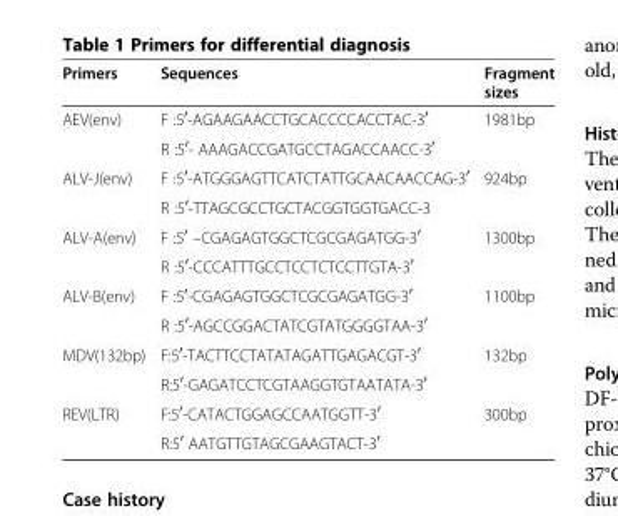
<table><thead><tr><td>Primers</td><td>Sequences</td><td>Fragment sizes</td></tr></thead><tbody><tr><td rowspan="2">AEV(env)</td><td>F :5<sup>′</sup>-AGAAGAACCTGCACCCCACCTAC-3<sup>′</sup></td><td rowspan="2">1981bp</td></tr><tr><td>R :5<sup>′</sup>- AAAGACCGATGCCTAGACCAACC-3<sup>′</sup></td></tr><tr><td rowspan="2">ALV-J(env)</td><td>F :5<sup>′</sup>-ATGGGAGTTCATCTATTGCAACAACCAG-3<sup>′</sup></td><td rowspan="2">924bp</td></tr><tr><td>R :5<sup>′</sup>-TTAGCGCCTGCTACGGTGGTGACC-3</td></tr><tr><td rowspan="2">ALV-A(env)</td><td>F :5<sup>′</sup> –CGAGAGTGGCTCGCGAGATGG-3<sup>′</sup></td><td rowspan="2">1300bp</td></tr><tr><td>R :5<sup>′</sup>-CCCATTTGCCTCCTCTCCTTGTA-3<sup>′</sup></td></tr><tr><td rowspan="2">ALV-B(env)</td><td>F :5<sup>′</sup>-CGAGAGTGGCTCGCGAGATGG-3<sup>′</sup></td><td rowspan="2">1100bp</td></tr><tr><td>R :5<sup>′</sup>-AGCCGGACTATCGTATGGGGTAA-3<sup>′</sup></td></tr><tr><td rowspan="2">MDV(132bp)</td><td>F:5<sup>′</sup>-TACTTCCTATATAGATTGAGACGT-3<sup>′</sup></td><td rowspan="2">132bp</td></tr><tr><td>R:5<sup>′</sup>-GAGATCCTCGTAAGGTGTAATATA-3<sup>′</sup></td></tr><tr><td rowspan="2">REV(LTR)</td><td>F:5<sup>′</sup>-CATACTGGAGCCAATGGTT-3<sup>′</sup></td><td>300bp</td></tr><tr><td>R:5<sup>′</sup> AATGTTGTAGCGAAGTACT-3<sup>′</sup></td><td></td></tr></tbody></table>